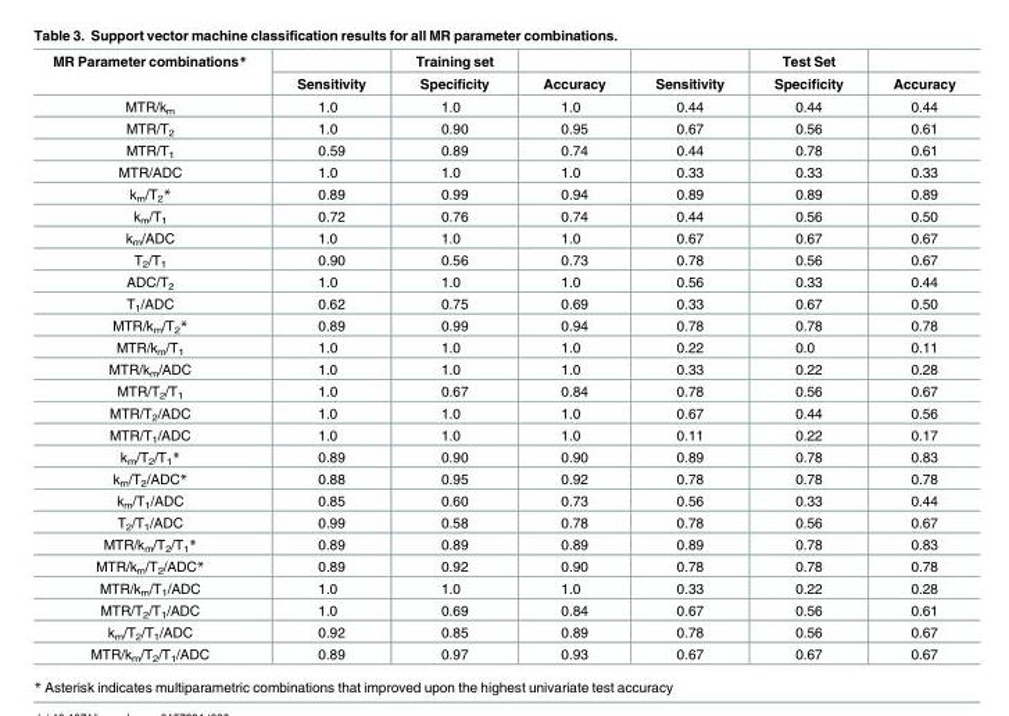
<table><thead><tr><td rowspan="2">MR Parameter combinations*</td><td rowspan="2">Sensitivity</td><td rowspan="2">Training set Specificity</td><td rowspan="2">Accuracy</td><td rowspan="2">Sensitivity</td><td rowspan="2">Test Set Specificity</td><td rowspan="2">Accuracy</td></tr><tr></tr></thead><tbody><tr><td>MTR/k<sub>m</sub></td><td>1.0</td><td>1.0</td><td>1.0</td><td>0.44</td><td>0.44</td><td>0.44</td></tr><tr><td>MTR/T<sub>2</sub></td><td>1.0</td><td>0.90</td><td>0.95</td><td>0.67</td><td>0.56</td><td>0.61</td></tr><tr><td>MTR/T<sub>1</sub></td><td>0.59</td><td>0.89</td><td>0.74</td><td>0.44</td><td>0.78</td><td>0.61</td></tr><tr><td>MTR/ADC</td><td>1.0</td><td>1.0</td><td>1.0</td><td>0.33</td><td>0.33</td><td>0.33</td></tr><tr><td>k<sub>m</sub>/T<sub>2</sub>*</td><td>0.89</td><td>0.99</td><td>0.94</td><td>0.89</td><td>0.89</td><td>0.89</td></tr><tr><td>k<sub>m</sub>/T<sub>1</sub></td><td>0.72</td><td>0.76</td><td>0.74</td><td>0.44</td><td>0.56</td><td>0.50</td></tr><tr><td>k<sub>m</sub>/ADC</td><td>1.0</td><td>1.0</td><td>1.0</td><td>0.67</td><td>0.67</td><td>0.67</td></tr><tr><td>T<sub>2</sub>/T<sub>1</sub></td><td>0.90</td><td>0.56</td><td>0.73</td><td>0.78</td><td>0.56</td><td>0.67</td></tr><tr><td>ADC/T<sub>2</sub></td><td>1.0</td><td>1.0</td><td>1.0</td><td>0.56</td><td>0.33</td><td>0.44</td></tr><tr><td>T<sub>1</sub>/ADC</td><td>0.62</td><td>0.75</td><td>0.69</td><td>0.33</td><td>0.67</td><td>0.50</td></tr><tr><td>MTR/k<sub>m</sub>/T<sub>2</sub>*</td><td>0.89</td><td>0.99</td><td>0.94</td><td>0.78</td><td>0.78</td><td>0.78</td></tr><tr><td>MTR/k<sub>m</sub>/T<sub>1</sub></td><td>1.0</td><td>1.0</td><td>1.0</td><td>0.22</td><td>0.0</td><td>0.11</td></tr><tr><td>MTR/k<sub>m</sub>/ADC</td><td>1.0</td><td>1.0</td><td>1.0</td><td>0.33</td><td>0.22</td><td>0.28</td></tr><tr><td>MTR/T<sub>2</sub>/T<sub>1</sub></td><td>1.0</td><td>0.67</td><td>0.84</td><td>0.78</td><td>0.56</td><td>0.67</td></tr><tr><td>MTR/T<sub>2</sub>/ADC</td><td>1.0</td><td>1.0</td><td>1.0</td><td>0.67</td><td>0.44</td><td>0.56</td></tr><tr><td>MTR/T<sub>1</sub>/ADC</td><td>1.0</td><td>1.0</td><td>1.0</td><td>0.11</td><td>0.22</td><td>0.17</td></tr><tr><td>k<sub>m</sub>/T<sub>2</sub>/T<sub>1</sub>*</td><td>0.89</td><td>0.90</td><td>0.90</td><td>0.89</td><td>0.78</td><td>0.83</td></tr><tr><td>k<sub>m</sub>/T<sub>2</sub>/ADC*</td><td>0.88</td><td>0.95</td><td>0.92</td><td>0.78</td><td>0.78</td><td>0.78</td></tr><tr><td>k<sub>m</sub>/T<sub>1</sub>/ADC</td><td>0.85</td><td>0.60</td><td>0.73</td><td>0.56</td><td>0.33</td><td>0.44</td></tr><tr><td>T<sub>2</sub>/T<sub>1</sub>/ADC</td><td>0.99</td><td>0.58</td><td>0.78</td><td>0.78</td><td>0.56</td><td>0.67</td></tr><tr><td>MTR/k<sub>m</sub>/T<sub>2</sub>/T<sub>1</sub>*</td><td>0.89</td><td>0.89</td><td>0.89</td><td>0.89</td><td>0.78</td><td>0.83</td></tr><tr><td>MTR/k<sub>m</sub>/T<sub>2</sub>/ADC*</td><td>0.89</td><td>0.92</td><td>0.90</td><td>0.78</td><td>0.78</td><td>0.78</td></tr><tr><td>MTR/k<sub>m</sub>/T<sub>1</sub>/ADC</td><td>1.0</td><td>1.0</td><td>1.0</td><td>0.33</td><td>0.22</td><td>0.28</td></tr><tr><td>MTR/T<sub>2</sub>/T<sub>1</sub>/ADC</td><td>1.0</td><td>0.69</td><td>0.84</td><td>0.67</td><td>0.56</td><td>0.61</td></tr><tr><td>k<sub>m</sub>/T<sub>2</sub>/T<sub>1</sub>/ADC</td><td>0.92</td><td>0.85</td><td>0.89</td><td>0.78</td><td>0.56</td><td>0.67</td></tr><tr><td>MTR/k<sub>m</sub>/T<sub>2</sub>/T<sub>1</sub>/ADC</td><td>0.89</td><td>0.97</td><td>0.93</td><td>0.67</td><td>0.67</td><td>0.67</td></tr></tbody></table>